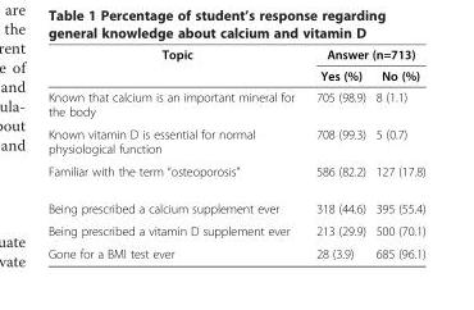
<table><thead><tr><td rowspan="2">Topic</td><td colspan="2">Answer (n=713)</td></tr><tr><td>Yes (%)</td><td>No (%)</td></tr></thead><tbody><tr><td>Known that calcium is an important mineral for the body</td><td>705 (98.9)</td><td>8 (1.1)</td></tr><tr><td>Known vitamin D is essential for normal physiological function</td><td>708 (99.3)</td><td>5 (0.7)</td></tr><tr><td>Familiar with the term “osteoporosis”</td><td>586 (82.2)</td><td>127 (17.8)</td></tr><tr><td>Being prescribed a calcium supplement ever</td><td>318 (44.6)</td><td>395 (55.4)</td></tr><tr><td>Being prescribed a vitamin D supplement ever</td><td>213 (29.9)</td><td>500 (70.1)</td></tr><tr><td>Gone for a BMI test ever</td><td>28 (3.9)</td><td>685 (96.1)</td></tr></tbody></table>